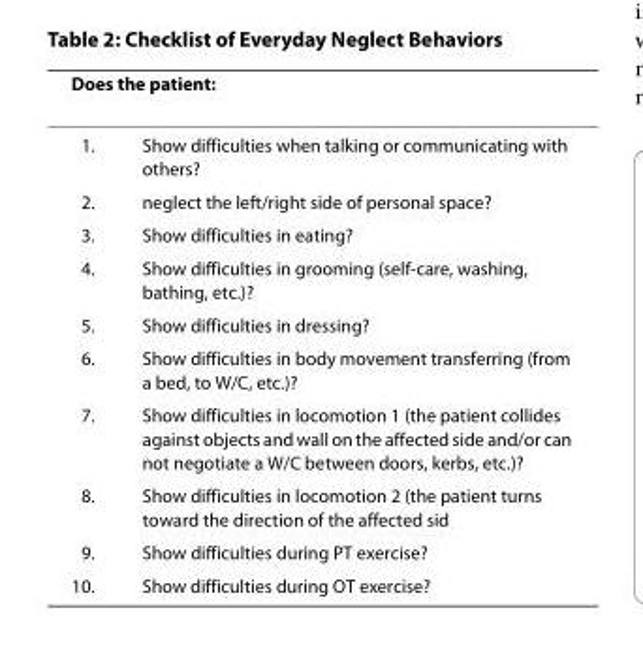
<table><thead><tr><td colspan="2">Does the patient:</td></tr><tr><td>1.</td><td>Show difficulties when talking or communicating with others?</td></tr></thead><tbody><tr><td>2.</td><td>neglect the left/right side of personal space?</td></tr><tr><td>3.</td><td>Show difficulties in eating?</td></tr><tr><td>4.</td><td>Show difficulties in grooming (self-care, washing, bathing, etc.)?</td></tr><tr><td>5.</td><td>Show difficulties in dressing?</td></tr><tr><td>6.</td><td>Show difficulties in body movement transferring (from a bed, to W/C, etc.)?</td></tr><tr><td>7.</td><td>Show difficulties in locomotion 1 (the patient collides against objects and wall on the affected side and/or can not negotiate a W/C between doors, kerbs, etc.)?</td></tr><tr><td>8.</td><td>Show difficulties in locomotion 2 (the patient turns toward the direction of the affected sid</td></tr><tr><td>9.</td><td>Show difficulties during PT exercise?</td></tr><tr><td>10.</td><td>Show difficulties during OT exercise?</td></tr></tbody></table>